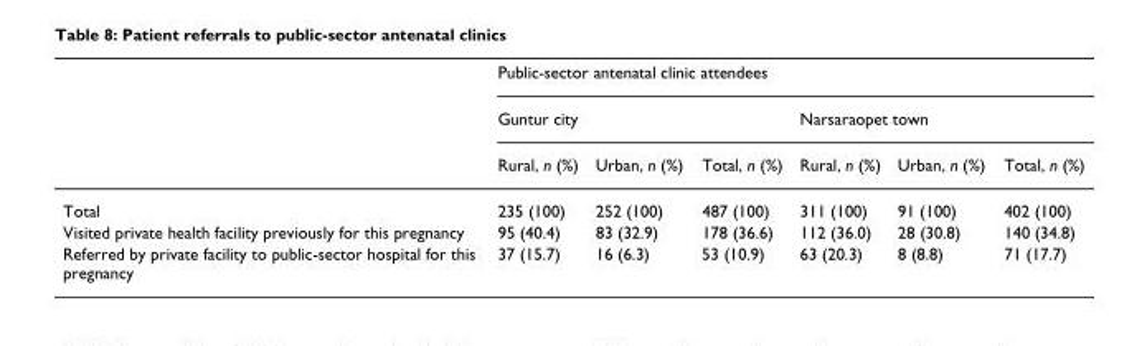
<table><thead><tr><td rowspan="3"></td><td colspan="6">Public-sector antenatal clinic attendees</td></tr><tr><td colspan="3">Guntur city</td><td colspan="3">Narsaraopet town</td></tr><tr><td>Rural, n (%)</td><td>Urban, n (%)</td><td>Total, n (%)</td><td>Rural, n (%)</td><td>Urban, n (%)</td><td>Total, n (%)</td></tr></thead><tbody><tr><td>Total</td><td>235 (100)</td><td>252 (100)</td><td>487 (100)</td><td>311 (100)</td><td>91 (100)</td><td>402 (100)</td></tr><tr><td>Visited private health facility previously for this pregnancy</td><td>95 (40.4)</td><td>83 (32.9)</td><td>178 (36.6)</td><td>112 (36.0)</td><td>28 (30.8)</td><td>140 (34.8)</td></tr><tr><td>Referred by private facility to public-sector hospital for this pregnancy</td><td>37 (15.7)</td><td>16 (6.3)</td><td>53 (10.9)</td><td>63 (20.3)</td><td>8 (8.8)</td><td>71 (17.7)</td></tr></tbody></table>